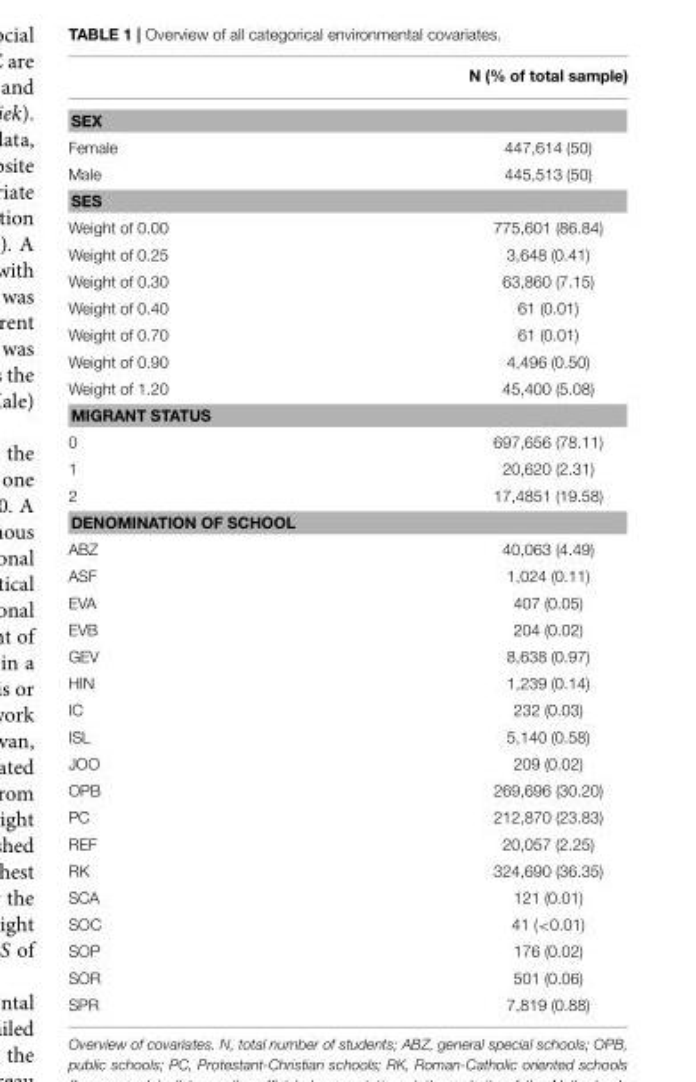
<table><thead><tr><td></td><td>N (% of total sample)</td></tr></thead><tbody><tr><td colspan="2">SEX</td></tr><tr><td>Female</td><td>447,614 (50)</td></tr><tr><td>Male</td><td>445,513 (50)</td></tr><tr><td colspan="2">SES</td></tr><tr><td>Weight of 0.00</td><td>775,601 (86.84)</td></tr><tr><td>Weight of 0.25</td><td>3,648 (0.41)</td></tr><tr><td>Weight of 0.30</td><td>63,860 (7.15)</td></tr><tr><td>Weight of 0.40</td><td>61 (0.01)</td></tr><tr><td>Weight of 0.70</td><td>61 (0.01)</td></tr><tr><td>Weight of 0.90</td><td>4,496 (0.50)</td></tr><tr><td>Weight of 1.20</td><td>45,400 (5.08)</td></tr><tr><td colspan="2">MIGRANT STATUS</td></tr><tr><td>0</td><td>697,656 (78.11)</td></tr><tr><td>1</td><td>20,620 (2.31)</td></tr><tr><td>2</td><td>17,4851 (19.58)</td></tr><tr><td colspan="2">DENOMINATION OF SCHOOL</td></tr><tr><td>ABZ</td><td>40,063 (4.49)</td></tr><tr><td>ASF</td><td>1,024 (0.11)</td></tr><tr><td>EVA</td><td>407 (0.05)</td></tr><tr><td>EVB</td><td>204 (0.02)</td></tr><tr><td>GEV</td><td>8,638 (0.97)</td></tr><tr><td>HIN</td><td>1,239 (0.14)</td></tr><tr><td>IC</td><td>232 (0.03)</td></tr><tr><td>ISL</td><td>5,140 (0.58)</td></tr><tr><td>JOO</td><td>209 (0.02)</td></tr><tr><td>OPB</td><td>269,696 (30.20)</td></tr><tr><td>PC</td><td>212,870 (23.83)</td></tr><tr><td>REF</td><td>20,057 (2.25)</td></tr><tr><td>RK</td><td>324,690 (36.35)</td></tr><tr><td>SCA</td><td>121 (0.01)</td></tr><tr><td>SOC</td><td>41 (&lt;0.01)</td></tr><tr><td>SOP</td><td>176 (0.02)</td></tr><tr><td>SOR</td><td>501 (0.06)</td></tr><tr><td>SPR</td><td>7,819 (0.88)</td></tr></tbody></table>